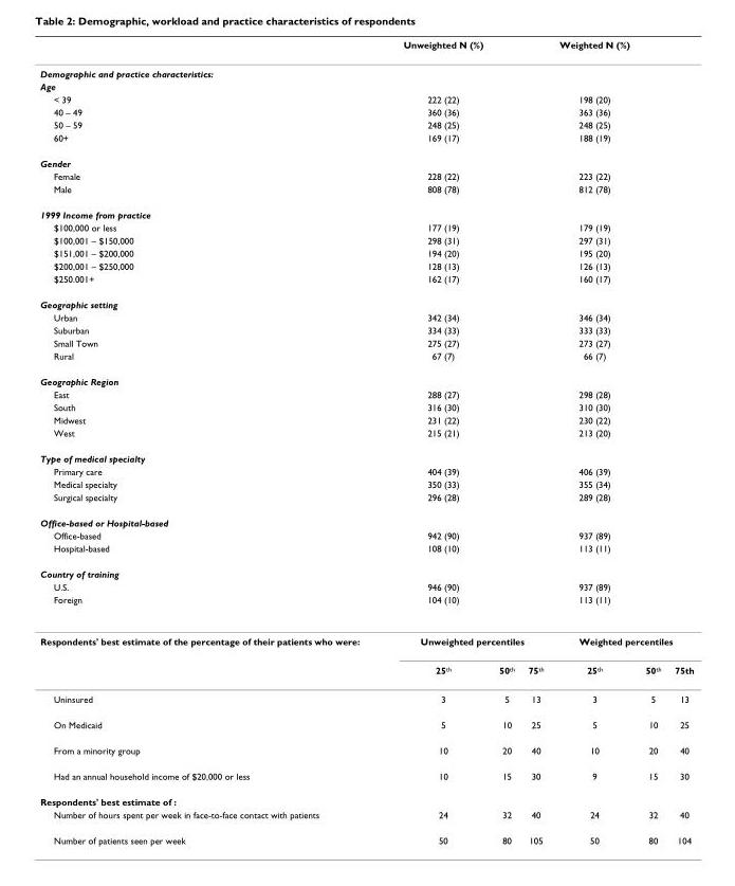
<table><thead><tr><td></td><td>Unweighted N (%)</td><td></td><td></td><td>Weighted N (%)</td><td></td><td></td></tr></thead><tbody><tr><td colspan="7">Demographic and practice characteristics:</td></tr><tr><td colspan="7">Age</td></tr><tr><td>&lt; 39</td><td>222 (22)</td><td></td><td></td><td>198 (20)</td><td></td><td></td></tr><tr><td>40 – 49</td><td>360 (36)</td><td></td><td></td><td>363 (36)</td><td></td><td></td></tr><tr><td>50 – 59</td><td>248 (25)</td><td></td><td></td><td>248 (25)</td><td></td><td></td></tr><tr><td>60+</td><td>169 (17)</td><td></td><td></td><td>188 (19)</td><td></td><td></td></tr><tr><td colspan="7">Gender</td></tr><tr><td>Female</td><td>228 (22)</td><td></td><td></td><td>223 (22)</td><td></td><td></td></tr><tr><td>Male</td><td>808 (78)</td><td></td><td></td><td>812 (78)</td><td></td><td></td></tr><tr><td colspan="7">1999 Income from practice</td></tr><tr><td>$100,000 or less</td><td>177 (19)</td><td></td><td></td><td>179 (19)</td><td></td><td></td></tr><tr><td>$100,001 – $150,000</td><td>298 (31)</td><td></td><td></td><td>297 (31)</td><td></td><td></td></tr><tr><td>$151,001 – $200,000</td><td>194 (20)</td><td></td><td></td><td>195 (20)</td><td></td><td></td></tr><tr><td>$200,001 – $250,000</td><td>128 (13)</td><td></td><td></td><td>126 (13)</td><td></td><td></td></tr><tr><td>$250.001+</td><td>162 (17)</td><td></td><td></td><td>160 (17)</td><td></td><td></td></tr><tr><td colspan="7">Geographic setting</td></tr><tr><td>Urban</td><td>342 (34)</td><td></td><td></td><td>346 (34)</td><td></td><td></td></tr><tr><td>Suburban</td><td>334 (33)</td><td></td><td></td><td>333 (33)</td><td></td><td></td></tr><tr><td>Small Town</td><td>275 (27)</td><td></td><td></td><td>273 (27)</td><td></td><td></td></tr><tr><td>Rural</td><td>67 (7)</td><td></td><td></td><td>66 (7)</td><td></td><td></td></tr><tr><td colspan="7">Geographic Region</td></tr><tr><td>East</td><td>288 (27)</td><td></td><td></td><td>298 (28)</td><td></td><td></td></tr><tr><td>South</td><td>316 (30)</td><td></td><td></td><td>310 (30)</td><td></td><td></td></tr><tr><td>Midwest</td><td>231 (22)</td><td></td><td></td><td>230 (22)</td><td></td><td></td></tr><tr><td>West</td><td>215 (21)</td><td></td><td></td><td>213 (20)</td><td></td><td></td></tr><tr><td colspan="7">Type of medical specialty</td></tr><tr><td>Primary care</td><td>404 (39)</td><td></td><td></td><td>406 (39)</td><td></td><td></td></tr><tr><td>Medical specialty</td><td>350 (33)</td><td></td><td></td><td>355 (34)</td><td></td><td></td></tr><tr><td>Surgical specialty</td><td>296 (28)</td><td></td><td></td><td>289 (28)</td><td></td><td></td></tr><tr><td colspan="7">Office-based or Hospital-based</td></tr><tr><td>Office-based</td><td>942 (90)</td><td></td><td></td><td>937 (89)</td><td></td><td></td></tr><tr><td>Hospital-based</td><td>108 (10)</td><td></td><td></td><td>113 (11)</td><td></td><td></td></tr><tr><td colspan="7">Country of training</td></tr><tr><td>U.S.</td><td>946 (90)</td><td></td><td></td><td>937 (89)</td><td></td><td></td></tr><tr><td>Foreign</td><td>104 (10)</td><td></td><td></td><td>113 (11)</td><td></td><td></td></tr><tr><td rowspan="2">Respondents&#x27; best estimate of the percentage of their patients who were:</td><td colspan="3">Unweighted percentiles</td><td colspan="3">Weighted percentiles</td></tr><tr><td>25<sup>th</sup></td><td>50<sup>th</sup></td><td>75<sup>th</sup></td><td>25<sup>th</sup></td><td>50<sup>th</sup></td><td>75th</td></tr><tr><td>Uninsured</td><td>3</td><td>5</td><td>13</td><td>3</td><td>5</td><td>13</td></tr><tr><td>On Medicaid</td><td>5</td><td>10</td><td>25</td><td>5</td><td>10</td><td>25</td></tr><tr><td>From a minority group</td><td>10</td><td>20</td><td>40</td><td>10</td><td>20</td><td>40</td></tr><tr><td>Had an annual household income of $20,000 or less</td><td>10</td><td>15</td><td>30</td><td>9</td><td>15</td><td>30</td></tr><tr><td colspan="7">Respondents&#x27; best estimate of :</td></tr><tr><td>Number of hours spent per week in face-to-face contact with patients</td><td>24</td><td>32</td><td>40</td><td>24</td><td>32</td><td>40</td></tr><tr><td>Number of patients seen per week</td><td>50</td><td>80</td><td>105</td><td>50</td><td>80</td><td>104</td></tr></tbody></table>